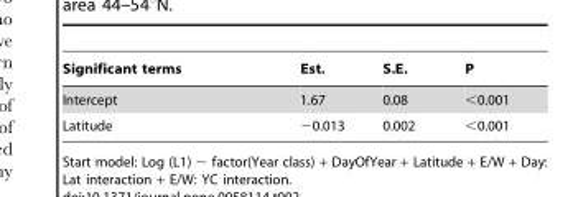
<table><thead><tr><td>Significant terms</td><td>Est.</td><td>S.E.</td><td>P</td></tr></thead><tbody><tr><td>Intercept</td><td>1.67</td><td>0.08</td><td>&lt;0.001</td></tr><tr><td>Latitude</td><td>−0.013</td><td>0.002</td><td>&lt;0.001</td></tr></tbody></table>